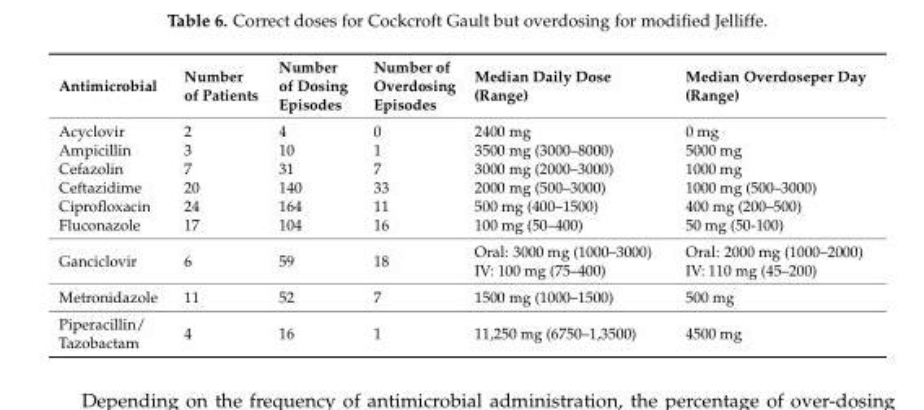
<table><thead><tr><td>Antimicrobial</td><td>Number of Patients</td><td>Number of Dosing Episodes</td><td>Number of Overdosing Episodes</td><td>Median Daily Dose (Range)</td><td>Median Overdoseper Day (Range)</td></tr></thead><tbody><tr><td>Acyclovir</td><td>2</td><td>4</td><td>0</td><td>2400 mg</td><td>0 mg</td></tr><tr><td>Ampicillin</td><td>3</td><td>10</td><td>1</td><td>3500 mg (3000–8000)</td><td>5000 mg</td></tr><tr><td>Cefazolin</td><td>7</td><td>31</td><td>7</td><td>3000 mg (2000–3000)</td><td>1000 mg</td></tr><tr><td>Ceftazidime</td><td>20</td><td>140</td><td>33</td><td>2000 mg (500–3000)</td><td>1000 mg (500–3000)</td></tr><tr><td>Ciprofloxacin</td><td>24</td><td>164</td><td>11</td><td>500 mg (400–1500)</td><td>400 mg (200–500)</td></tr><tr><td>Fluconazole</td><td>17</td><td>104</td><td>16</td><td>100 mg (50–400)</td><td>50 mg (50-100)</td></tr><tr><td>Ganciclovir</td><td>6</td><td>59</td><td>18</td><td>Oral: 3000 mg (1000–3000) IV: 100 mg (75–400)</td><td>Oral: 2000 mg (1000–2000) IV: 110 mg (45–200)</td></tr><tr><td>Metronidazole</td><td>11</td><td>52</td><td>7</td><td>1500 mg (1000–1500)</td><td>500 mg</td></tr><tr><td>Piperacillin/ Tazobactam</td><td>4</td><td>16</td><td>1</td><td>11,250 mg (6750–1,3500)</td><td>4500 mg</td></tr></tbody></table>